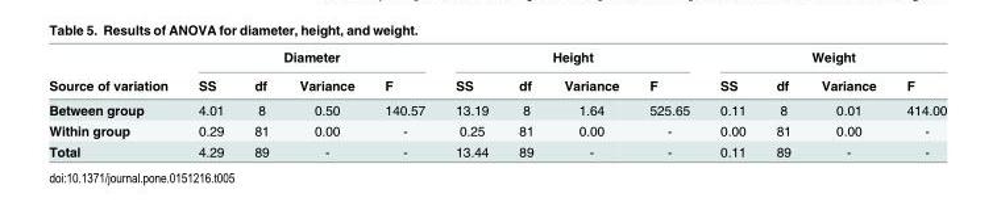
<table><thead><tr><td rowspan="2">Source of variation</td><td colspan="4">Diameter</td><td colspan="4">Height</td><td colspan="4">Weight</td></tr><tr><td>SS</td><td>df</td><td>Variance</td><td>F</td><td>SS</td><td>df</td><td>Variance</td><td>F</td><td>SS</td><td>df</td><td>Variance</td><td>F</td></tr></thead><tbody><tr><td>Between group</td><td>4.01</td><td>8</td><td>0.50</td><td>140.57</td><td>13.19</td><td>8</td><td>1.64</td><td>525.65</td><td>0.11</td><td>8</td><td>0.01</td><td>414.00</td></tr><tr><td>Within group</td><td>0.29</td><td>81</td><td>0.00</td><td>-</td><td>0.25</td><td>81</td><td>0.00</td><td>-</td><td>0.00</td><td>81</td><td>0.00</td><td>-</td></tr><tr><td>Total</td><td>4.29</td><td>89</td><td>-</td><td>-</td><td>13.44</td><td>89</td><td>-</td><td>-</td><td>0.11</td><td>89</td><td>-</td><td>-</td></tr></tbody></table>